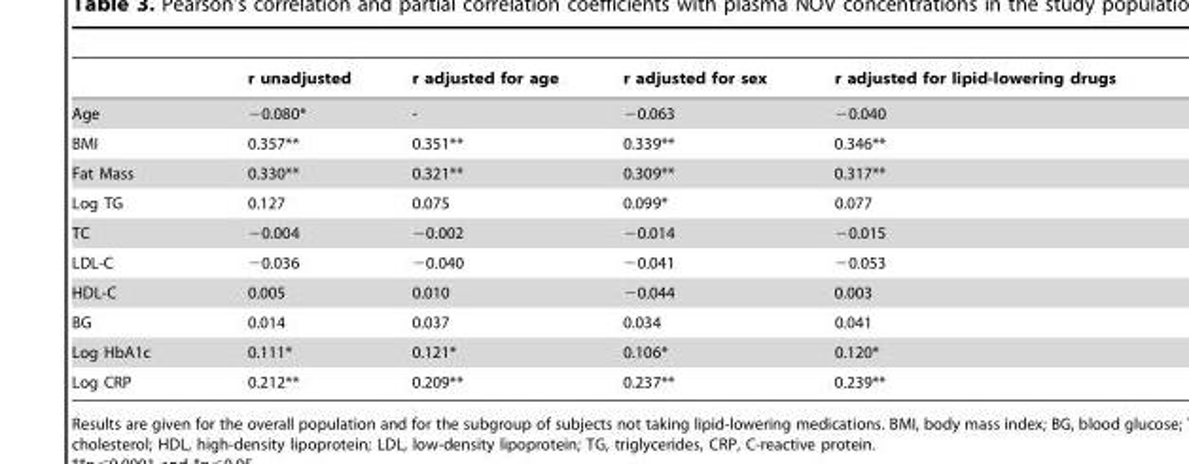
<table><thead><tr><td></td><td>r unadjusted</td><td>r adjusted for age</td><td>r adjusted for sex</td><td>r adjusted for lipid-lowering drugs</td></tr></thead><tbody><tr><td>Age</td><td>−0.080*</td><td>-</td><td>−0.063</td><td>−0.040</td></tr><tr><td>BMI</td><td>0.357**</td><td>0.351**</td><td>0.339**</td><td>0.346**</td></tr><tr><td>Fat Mass</td><td>0.330**</td><td>0.321**</td><td>0.309**</td><td>0.317**</td></tr><tr><td>Log TG</td><td>0.127</td><td>0.075</td><td>0.099*</td><td>0.077</td></tr><tr><td>TC</td><td>−0.004</td><td>−0.002</td><td>−0.014</td><td>−0.015</td></tr><tr><td>LDL-C</td><td>−0.036</td><td>−0.040</td><td>−0.041</td><td>−0.053</td></tr><tr><td>HDL-C</td><td>0.005</td><td>0.010</td><td>−0.044</td><td>0.003</td></tr><tr><td>BG</td><td>0.014</td><td>0.037</td><td>0.034</td><td>0.041</td></tr><tr><td>Log HbA1c</td><td>0.111*</td><td>0.121*</td><td>0.106*</td><td>0.120*</td></tr><tr><td>Log CRP</td><td>0.212**</td><td>0.209**</td><td>0.237**</td><td>0.239**</td></tr></tbody></table>